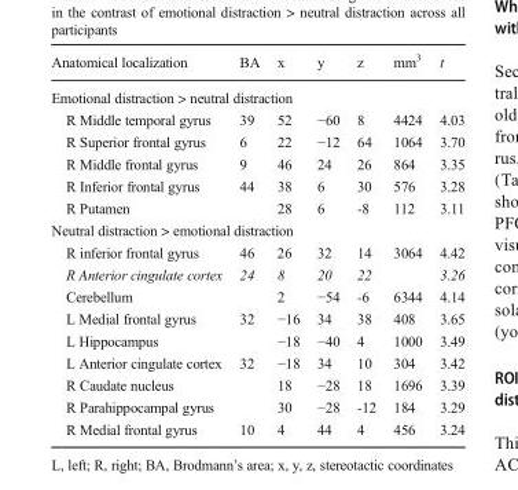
<table><thead><tr><td>Anatomical localization</td><td>BA</td><td>x</td><td>y</td><td>z</td><td>mm<sup>3</sup></td><td>t</td></tr></thead><tbody><tr><td colspan="7">Emotional distraction &gt; neutral distraction</td></tr><tr><td>R Middle temporal gyrus</td><td>39</td><td>52</td><td>−60</td><td>8</td><td>4424</td><td>4.03</td></tr><tr><td>R Superior frontal gyrus</td><td>6</td><td>22</td><td>−12</td><td>64</td><td>1064</td><td>3.70</td></tr><tr><td>R Middle frontal gyrus</td><td>9</td><td>46</td><td>24</td><td>26</td><td>864</td><td>3.35</td></tr><tr><td>R Inferior frontal gyrus</td><td>44</td><td>38</td><td>6</td><td>30</td><td>576</td><td>3.28</td></tr><tr><td>R Putamen</td><td></td><td>28</td><td>6</td><td>-8</td><td>112</td><td>3.11</td></tr><tr><td colspan="7">Neutral distraction &gt; emotional distraction</td></tr><tr><td>R inferior frontal gyrus</td><td>46</td><td>26</td><td>32</td><td>14</td><td>3064</td><td>4.42</td></tr><tr><td>R Anterior cingulate cortex</td><td>24</td><td>8</td><td>20</td><td>22</td><td></td><td>3.26</td></tr><tr><td>Cerebellum</td><td></td><td>2</td><td>−54</td><td>-6</td><td>6344</td><td>4.14</td></tr><tr><td>L Medial frontal gyrus</td><td>32</td><td>−16</td><td>34</td><td>38</td><td>408</td><td>3.65</td></tr><tr><td>L Hippocampus</td><td></td><td>−18</td><td>−40</td><td>4</td><td>1000</td><td>3.49</td></tr><tr><td>L Anterior cingulate cortex</td><td>32</td><td>−18</td><td>34</td><td>10</td><td>304</td><td>3.42</td></tr><tr><td>R Caudate nucleus</td><td></td><td>18</td><td>−28</td><td>18</td><td>1696</td><td>3.39</td></tr><tr><td>R Parahippocampal gyrus</td><td></td><td>30</td><td>−28</td><td>-12</td><td>184</td><td>3.29</td></tr><tr><td>R Medial frontal gyrus</td><td>10</td><td>4</td><td>44</td><td>4</td><td>456</td><td>3.24</td></tr></tbody></table>